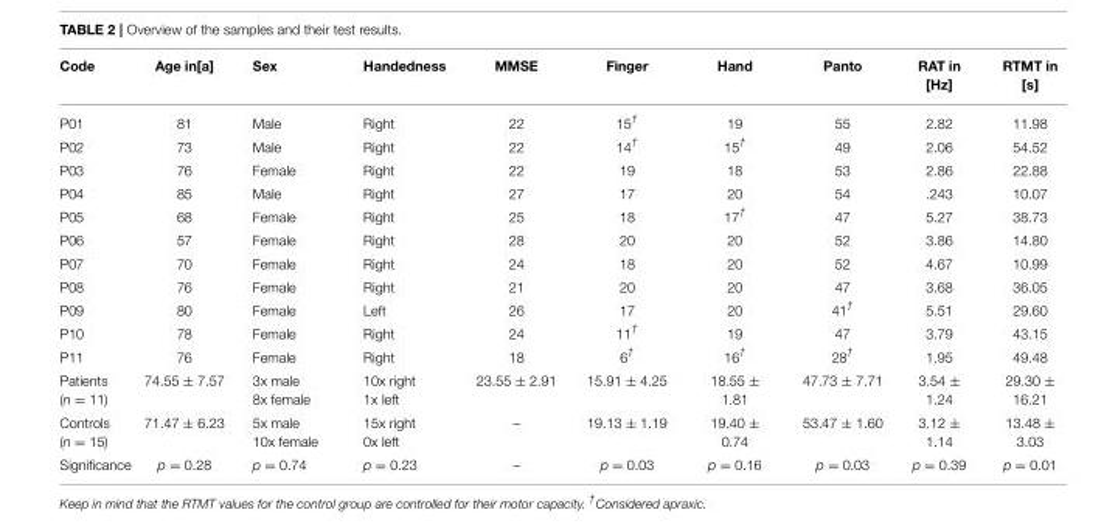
<table><thead><tr><td>Code</td><td>Age in[a]</td><td>Sex</td><td>Handedness</td><td>MMSE</td><td>Finger</td><td>Hand</td><td>Panto</td><td>RAT in [Hz]</td><td>RTMT in [s]</td></tr></thead><tbody><tr><td>P01</td><td>81</td><td>Male</td><td>Right</td><td>22</td><td>15<sup>†</sup></td><td>19</td><td>55</td><td>2.82</td><td>11.98</td></tr><tr><td>P02</td><td>73</td><td>Male</td><td>Right</td><td>22</td><td>14<sup>†</sup></td><td>15<sup>†</sup></td><td>49</td><td>2.06</td><td>54.52</td></tr><tr><td>P03</td><td>76</td><td>Female</td><td>Right</td><td>22</td><td>19</td><td>18</td><td>53</td><td>2.86</td><td>22.88</td></tr><tr><td>P04</td><td>85</td><td>Male</td><td>Right</td><td>27</td><td>17</td><td>20</td><td>54</td><td>.243</td><td>10.07</td></tr><tr><td>P05</td><td>68</td><td>Female</td><td>Right</td><td>25</td><td>18</td><td>17<sup>†</sup></td><td>47</td><td>5.27</td><td>38.73</td></tr><tr><td>P06</td><td>57</td><td>Female</td><td>Right</td><td>28</td><td>20</td><td>20</td><td>52</td><td>3.86</td><td>14.80</td></tr><tr><td>P07</td><td>70</td><td>Female</td><td>Right</td><td>24</td><td>18</td><td>20</td><td>52</td><td>4.67</td><td>10.99</td></tr><tr><td>P08</td><td>76</td><td>Female</td><td>Right</td><td>21</td><td>20</td><td>20</td><td>47</td><td>3.68</td><td>36.05</td></tr><tr><td>P09</td><td>80</td><td>Female</td><td>Left</td><td>26</td><td>17</td><td>20</td><td>41<sup>†</sup></td><td>5.51</td><td>29.60</td></tr><tr><td>P10</td><td>78</td><td>Female</td><td>Right</td><td>24</td><td>11<sup>†</sup></td><td>19</td><td>47</td><td>3.79</td><td>43.15</td></tr><tr><td>P11</td><td>76</td><td>Female</td><td>Right</td><td>18</td><td>6<sup>†</sup></td><td>16<sup>†</sup></td><td>28<sup>†</sup></td><td>1.95</td><td>49.48</td></tr><tr><td>Patients (n = 11)</td><td>74.55 ± 7.57</td><td>3x male 8x female</td><td>10x right 1x left</td><td>23.55 ± 2.91</td><td>15.91 ± 4.25</td><td>18.55 ± 1.81</td><td>47.73 ± 7.71</td><td>3.54 ± 1.24</td><td>29.30 ± 16.21</td></tr><tr><td>Controls (n = 15)</td><td>71.47 ± 6.23</td><td>5x male 10x female</td><td>15x right 0x left</td><td>–</td><td>19.13 ± 1.19</td><td>19.40 ± 0.74</td><td>53.47 ± 1.60</td><td>3.12 ± 1.14</td><td>13.48 ± 3.03</td></tr><tr><td>Significance</td><td>p = 0.28</td><td>p = 0.74</td><td>p = 0.23</td><td>–</td><td>p = 0.03</td><td>p = 0.16</td><td>p = 0.03</td><td>p = 0.39</td><td>p = 0.01</td></tr></tbody></table>